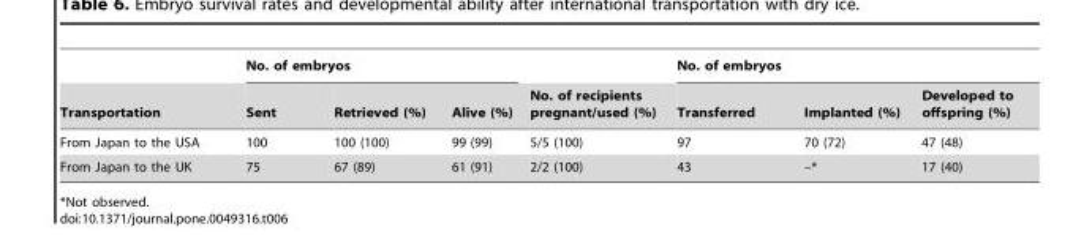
<table><thead><tr><td rowspan="2">Transportation</td><td colspan="3">No. of embryos</td><td rowspan="2">No. of recipients pregnant/used (%)</td><td colspan="3">No. of embryos</td></tr><tr><td>Sent</td><td>Retrieved (%)</td><td>Alive (%)</td><td>Transferred</td><td>Implanted (%)</td><td>Developed to offspring (%)</td></tr></thead><tbody><tr><td>From Japan to the USA</td><td>100</td><td>100 (100)</td><td>99 (99)</td><td>5/5 (100)</td><td>97</td><td>70 (72)</td><td>47 (48)</td></tr><tr><td>From Japan to the UK</td><td>75</td><td>67 (89)</td><td>61 (91)</td><td>2/2 (100)</td><td>43</td><td>–*</td><td>17 (40)</td></tr></tbody></table>